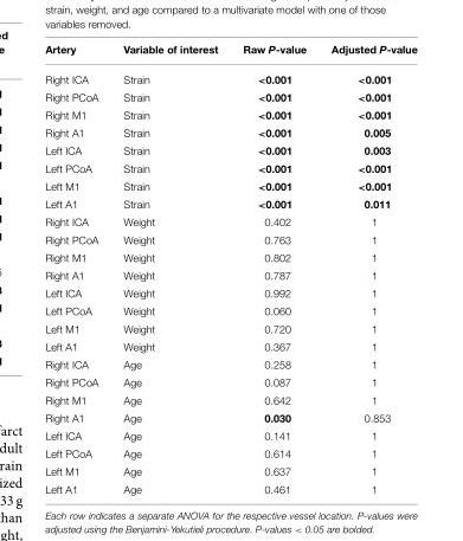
<table><thead><tr><td>Artery</td><td>Variable of interest</td><td>Raw P-value</td><td>Adjusted P-value</td></tr></thead><tbody><tr><td>Right ICA</td><td>Strain</td><td>&lt;0.001</td><td>&lt;0.001</td></tr><tr><td>Right PCoA</td><td>Strain</td><td>&lt;0.001</td><td>&lt;0.001</td></tr><tr><td>Right M1</td><td>Strain</td><td>&lt;0.001</td><td>&lt;0.001</td></tr><tr><td>Right A1</td><td>Strain</td><td>&lt;0.001</td><td>0.005</td></tr><tr><td>Left ICA</td><td>Strain</td><td>&lt;0.001</td><td>0.003</td></tr><tr><td>Left PCoA</td><td>Strain</td><td>&lt;0.001</td><td>&lt;0.001</td></tr><tr><td>Left M1</td><td>Strain</td><td>&lt;0.001</td><td>&lt;0.001</td></tr><tr><td>Left A1</td><td>Strain</td><td>&lt;0.001</td><td>0.011</td></tr><tr><td>Right ICA</td><td>Weight</td><td>0.402</td><td>1</td></tr><tr><td>Right PCoA</td><td>Weight</td><td>0.763</td><td>1</td></tr><tr><td>Right M1</td><td>Weight</td><td>0.802</td><td>1</td></tr><tr><td>Right A1</td><td>Weight</td><td>0.787</td><td>1</td></tr><tr><td>Left ICA</td><td>Weight</td><td>0.992</td><td>1</td></tr><tr><td>Left PCoA</td><td>Weight</td><td>0.060</td><td>1</td></tr><tr><td>Left M1</td><td>Weight</td><td>0.720</td><td>1</td></tr><tr><td>Left A1</td><td>Weight</td><td>0.367</td><td>1</td></tr><tr><td>Right ICA</td><td>Age</td><td>0.258</td><td>1</td></tr><tr><td>Right PCoA</td><td>Age</td><td>0.087</td><td>1</td></tr><tr><td>Right M1</td><td>Age</td><td>0.642</td><td>1</td></tr><tr><td>Right A1</td><td>Age</td><td>0.030</td><td>0.853</td></tr><tr><td>Left ICA</td><td>Age</td><td>0.141</td><td>1</td></tr><tr><td>Left PCoA</td><td>Age</td><td>0.614</td><td>1</td></tr><tr><td>Left M1</td><td>Age</td><td>0.637</td><td>1</td></tr><tr><td>Left A1</td><td>Age</td><td>0.461</td><td>1</td></tr></tbody></table>